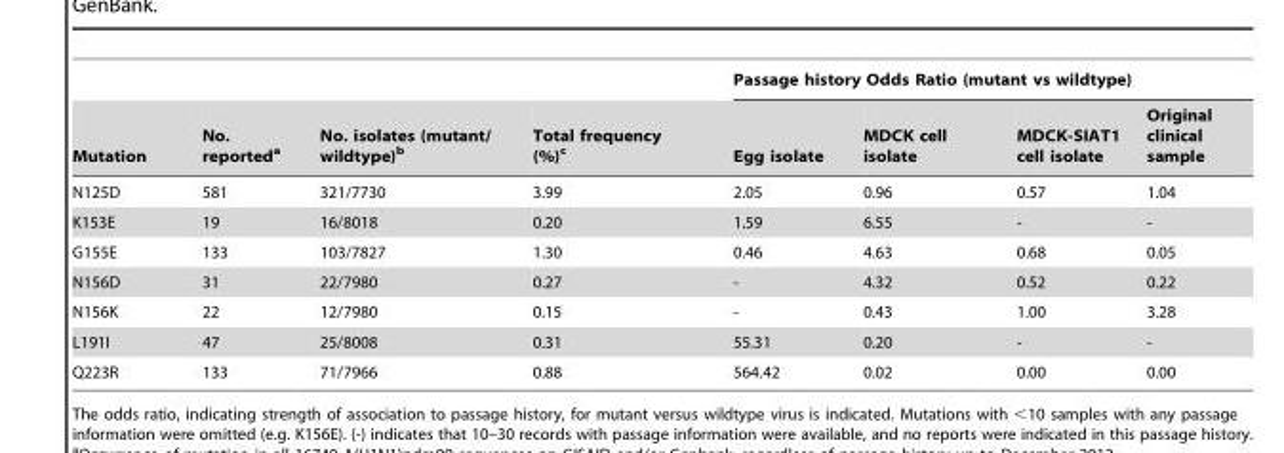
<table><thead><tr><td rowspan="2">Mutation</td><td rowspan="2">No. reported<sup>a</sup></td><td rowspan="2">No. isolates (mutant/ wildtype)<sup>b</sup></td><td rowspan="2">Total frequency (%)<sup>c</sup></td><td colspan="4">Passage history Odds Ratio (mutant vs wildtype)</td></tr><tr><td>Egg isolate</td><td>MDCK cell isolate</td><td>MDCK-SIAT1 cell isolate</td><td>Original clinical sample</td></tr></thead><tbody><tr><td>N125D</td><td>581</td><td>321/7730</td><td>3.99</td><td>2.05</td><td>0.96</td><td>0.57</td><td>1.04</td></tr><tr><td>K153E</td><td>19</td><td>16/8018</td><td>0.20</td><td>1.59</td><td>6.55</td><td>-</td><td>-</td></tr><tr><td>G155E</td><td>133</td><td>103/7827</td><td>1.30</td><td>0.46</td><td>4.63</td><td>0.68</td><td>0.05</td></tr><tr><td>N156D</td><td>31</td><td>22/7980</td><td>0.27</td><td>-</td><td>4.32</td><td>0.52</td><td>0.22</td></tr><tr><td>N156K</td><td>22</td><td>12/7980</td><td>0.15</td><td>-</td><td>0.43</td><td>1.00</td><td>3.28</td></tr><tr><td>L191I</td><td>47</td><td>25/8008</td><td>0.31</td><td>55.31</td><td>0.20</td><td>-</td><td>-</td></tr><tr><td>Q223R</td><td>133</td><td>71/7966</td><td>0.88</td><td>564.42</td><td>0.02</td><td>0.00</td><td>0.00</td></tr></tbody></table>